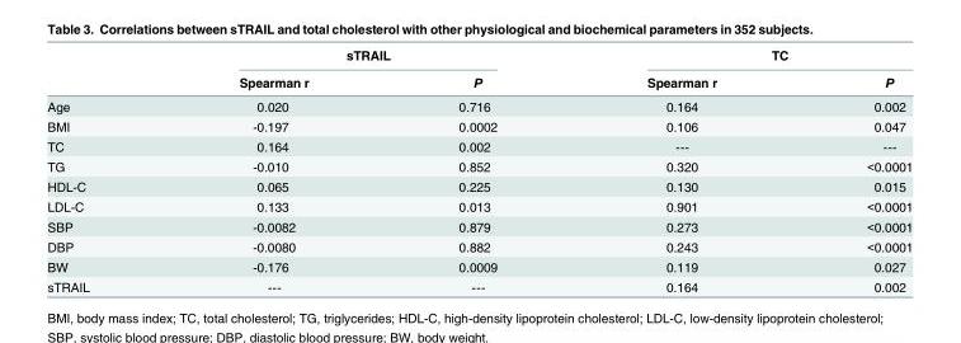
<table><thead><tr><td rowspan="2"></td><td colspan="2">sTRAIL</td><td colspan="2">TC</td></tr><tr><td>Spearman r</td><td>P</td><td>Spearman r</td><td>P</td></tr></thead><tbody><tr><td>Age</td><td>0.020</td><td>0.716</td><td>0.164</td><td>0.002</td></tr><tr><td>BMI</td><td>-0.197</td><td>0.0002</td><td>0.106</td><td>0.047</td></tr><tr><td>TC</td><td>0.164</td><td>0.002</td><td>---</td><td>---</td></tr><tr><td>TG</td><td>-0.010</td><td>0.852</td><td>0.320</td><td>&lt;0.0001</td></tr><tr><td>HDL-C</td><td>0.065</td><td>0.225</td><td>0.130</td><td>0.015</td></tr><tr><td>LDL-C</td><td>0.133</td><td>0.013</td><td>0.901</td><td>&lt;0.0001</td></tr><tr><td>SBP</td><td>-0.0082</td><td>0.879</td><td>0.273</td><td>&lt;0.0001</td></tr><tr><td>DBP</td><td>-0.0080</td><td>0.882</td><td>0.243</td><td>&lt;0.0001</td></tr><tr><td>BW</td><td>-0.176</td><td>0.0009</td><td>0.119</td><td>0.027</td></tr><tr><td>sTRAIL</td><td>---</td><td>---</td><td>0.164</td><td>0.002</td></tr></tbody></table>